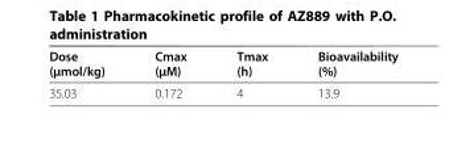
<table><thead><tr><td>Dose (μmol/kg)</td><td>Cmax (μM)</td><td>Tmax (h)</td><td>Bioavailability (%)</td></tr></thead><tbody><tr><td>35.03</td><td>0.172</td><td>4</td><td>13.9</td></tr></tbody></table>